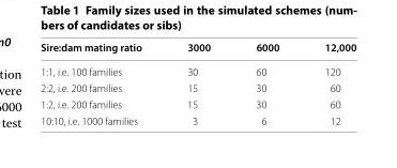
<table><thead><tr><td>Sire:dam mating ratio</td><td>3000</td><td>6000</td><td>12,000</td></tr></thead><tbody><tr><td>1:1, i.e. 100 families</td><td>30</td><td>60</td><td>120</td></tr><tr><td>2:2, i.e. 200 families</td><td>15</td><td>30</td><td>60</td></tr><tr><td>1:2, i.e. 200 families</td><td>15</td><td>30</td><td>60</td></tr><tr><td>10:10, i.e. 1000 families</td><td>3</td><td>6</td><td>12</td></tr></tbody></table>